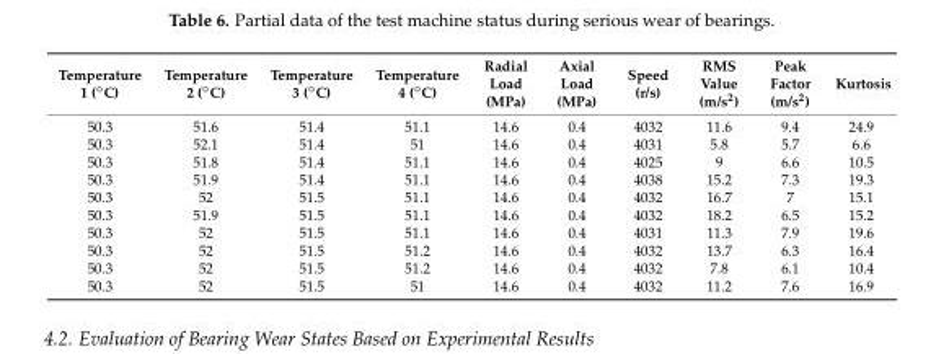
<table><thead><tr><td>Temperature 1 (◦C)</td><td>Temperature 2 (◦C)</td><td>Temperature 3 (◦C)</td><td>Temperature 4 (◦C)</td><td>Radial Load (MPa)</td><td>Axial Load (MPa)</td><td>Speed (r/s)</td><td>RMS Value (m/s<sup>2</sup>)</td><td>Peak Factor (m/s<sup>2</sup>)</td><td>Kurtosis</td></tr></thead><tbody><tr><td>50.3</td><td>51.6</td><td>51.4</td><td>51.1</td><td>14.6</td><td>0.4</td><td>4032</td><td>11.6</td><td>9.4</td><td>24.9</td></tr><tr><td>50.3</td><td>52.1</td><td>51.4</td><td>51</td><td>14.6</td><td>0.4</td><td>4031</td><td>5.8</td><td>5.7</td><td>6.6</td></tr><tr><td>50.3</td><td>51.8</td><td>51.4</td><td>51.1</td><td>14.6</td><td>0.4</td><td>4025</td><td>9</td><td>6.6</td><td>10.5</td></tr><tr><td>50.3</td><td>51.9</td><td>51.4</td><td>51.1</td><td>14.6</td><td>0.4</td><td>4038</td><td>15.2</td><td>7.3</td><td>19.3</td></tr><tr><td>50.3</td><td>52</td><td>51.5</td><td>51.1</td><td>14.6</td><td>0.4</td><td>4032</td><td>16.7</td><td>7</td><td>15.1</td></tr><tr><td>50.3</td><td>51.9</td><td>51.5</td><td>51.1</td><td>14.6</td><td>0.4</td><td>4032</td><td>18.2</td><td>6.5</td><td>15.2</td></tr><tr><td>50.3</td><td>52</td><td>51.5</td><td>51.1</td><td>14.6</td><td>0.4</td><td>4031</td><td>11.3</td><td>7.9</td><td>19.6</td></tr><tr><td>50.3</td><td>52</td><td>51.5</td><td>51.2</td><td>14.6</td><td>0.4</td><td>4032</td><td>13.7</td><td>6.3</td><td>16.4</td></tr><tr><td>50.3</td><td>52</td><td>51.5</td><td>51.2</td><td>14.6</td><td>0.4</td><td>4032</td><td>7.8</td><td>6.1</td><td>10.4</td></tr><tr><td>50.3</td><td>52</td><td>51.5</td><td>51</td><td>14.6</td><td>0.4</td><td>4032</td><td>11.2</td><td>7.6</td><td>16.9</td></tr></tbody></table>